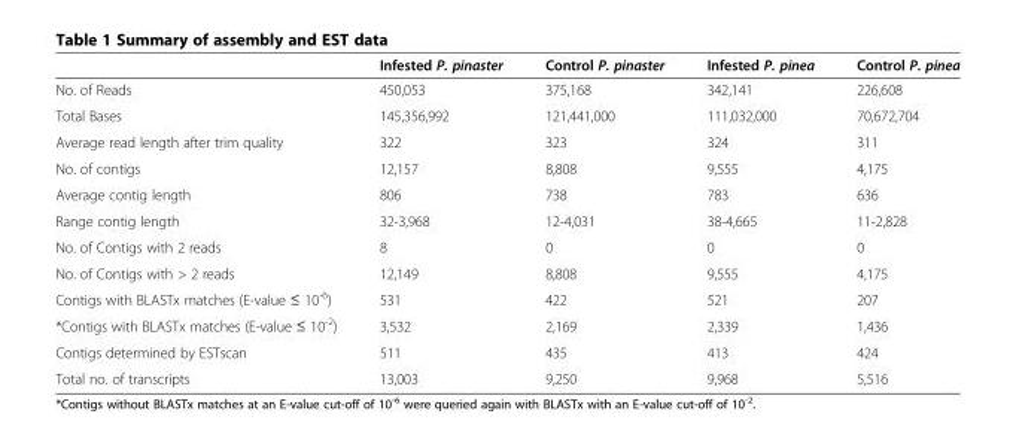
<table><thead><tr><td></td><td>Infested P. pinaster</td><td>Control P. pinaster</td><td>Infested P. pinea</td><td>Control P. pinea</td></tr></thead><tbody><tr><td>No. of Reads</td><td>450,053</td><td>375,168</td><td>342,141</td><td>226,608</td></tr><tr><td>Total Bases</td><td>145,356,992</td><td>121,441,000</td><td>111,032,000</td><td>70,672,704</td></tr><tr><td>Average read length after trim quality</td><td>322</td><td>323</td><td>324</td><td>311</td></tr><tr><td>No. of contigs</td><td>12,157</td><td>8,808</td><td>9,555</td><td>4,175</td></tr><tr><td>Average contig length</td><td>806</td><td>738</td><td>783</td><td>636</td></tr><tr><td>Range contig length</td><td>32-3,968</td><td>12-4,031</td><td>38-4,665</td><td>11-2,828</td></tr><tr><td>No. of Contigs with 2 reads</td><td>8</td><td>0</td><td>0</td><td>0</td></tr><tr><td>No. of Contigs with &gt; 2 reads</td><td>12,149</td><td>8,808</td><td>9,555</td><td>4,175</td></tr><tr><td>Contigs with BLASTx matches (E-value ≤ 10<sup>-6</sup>)</td><td>531</td><td>422</td><td>521</td><td>207</td></tr><tr><td>*Contigs with BLASTx matches (E-value ≤ 10<sup>-2</sup>)</td><td>3,532</td><td>2,169</td><td>2,339</td><td>1,436</td></tr><tr><td>Contigs determined by ESTscan</td><td>511</td><td>435</td><td>413</td><td>424</td></tr><tr><td>Total no. of transcripts</td><td>13,003</td><td>9,250</td><td>9,968</td><td>5,516</td></tr></tbody></table>